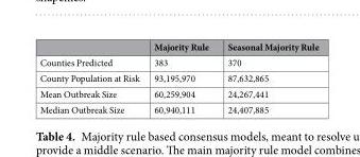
<table><thead><tr><td></td><td>Majority Rule</td><td>Seasonal Majority Rule</td></tr></thead><tbody><tr><td>Counties Predicted</td><td>383</td><td>370</td></tr><tr><td>County Population at Risk</td><td>93,195,970</td><td>87,632,865</td></tr><tr><td>Mean Outbreak Size</td><td>60,259,904</td><td>24,267,441</td></tr><tr><td>Median Outbreak Size</td><td>60,940,111</td><td>24,407,885</td></tr></tbody></table>